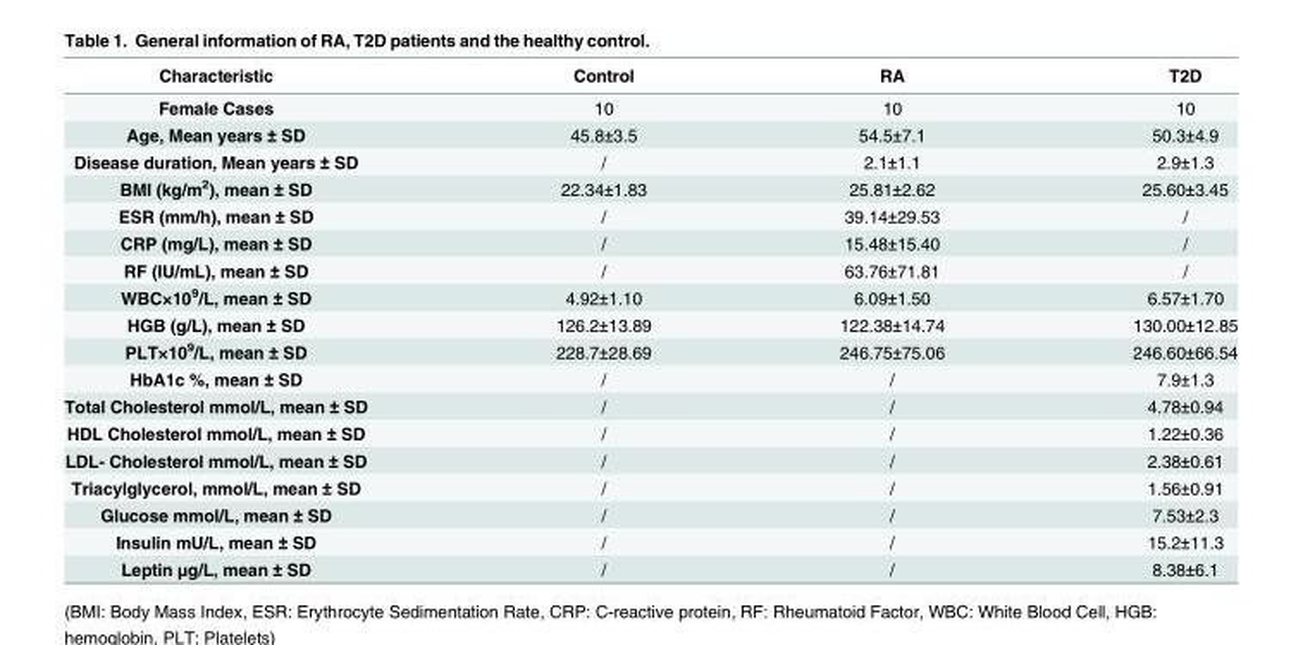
<table><thead><tr><td>Characteristic</td><td>Control</td><td>RA</td><td>T2D</td></tr></thead><tbody><tr><td>Female Cases</td><td>10</td><td>10</td><td>10</td></tr><tr><td>Age, Mean years ± SD</td><td>45.8±3.5</td><td>54.5±7.1</td><td>50.3±4.9</td></tr><tr><td>Disease duration, Mean years ± SD</td><td>/</td><td>2.1±1.1</td><td>2.9±1.3</td></tr><tr><td>BMI (kg/m<sup>2</sup>), mean ± SD</td><td>22.34±1.83</td><td>25.81±2.62</td><td>25.60±3.45</td></tr><tr><td>ESR (mm/h), mean ± SD</td><td>/</td><td>39.14±29.53</td><td>/</td></tr><tr><td>CRP (mg/L), mean ± SD</td><td>/</td><td>15.48±15.40</td><td>/</td></tr><tr><td>RF (IU/mL), mean ± SD</td><td>/</td><td>63.76±71.81</td><td>/</td></tr><tr><td>WBC×10<sup>9</sup>/L, mean ± SD</td><td>4.92±1.10</td><td>6.09±1.50</td><td>6.57±1.70</td></tr><tr><td>HGB (g/L), mean ± SD</td><td>126.2±13.89</td><td>122.38±14.74</td><td>130.00±12.85</td></tr><tr><td>PLT×10<sup>9</sup>/L, mean ± SD</td><td>228.7±28.69</td><td>246.75±75.06</td><td>246.60±66.54</td></tr><tr><td>HbA1c %, mean ± SD</td><td>/</td><td>/</td><td>7.9±1.3</td></tr><tr><td>Total Cholesterol mmol/L, mean ± SD</td><td>/</td><td>/</td><td>4.78±0.94</td></tr><tr><td>HDL Cholesterol mmol/L, mean ± SD</td><td>/</td><td>/</td><td>1.22±0.36</td></tr><tr><td>LDL- Cholesterol mmol/L, mean ± SD</td><td>/</td><td>/</td><td>2.38±0.61</td></tr><tr><td>Triacylglycerol, mmol/L, mean ± SD</td><td>/</td><td>/</td><td>1.56±0.91</td></tr><tr><td>Glucose mmol/L, mean ± SD</td><td>/</td><td>/</td><td>7.53±2.3</td></tr><tr><td>Insulin mU/L, mean ± SD</td><td>/</td><td>/</td><td>15.2±11.3</td></tr><tr><td>Leptin μg/L, mean ± SD</td><td>/</td><td>/</td><td>8.38±6.1</td></tr></tbody></table>